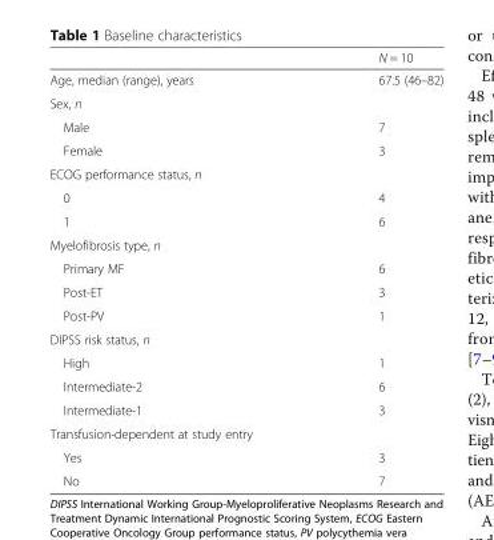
<table><thead><tr><td></td><td>N = 10</td></tr></thead><tbody><tr><td>Age, median (range), years</td><td>67.5 (46–82)</td></tr><tr><td colspan="2">Sex, n</td></tr><tr><td>Male</td><td>7</td></tr><tr><td>Female</td><td>3</td></tr><tr><td colspan="2">ECOG performance status, n</td></tr><tr><td>0</td><td>4</td></tr><tr><td>1</td><td>6</td></tr><tr><td colspan="2">Myelofibrosis type, n</td></tr><tr><td>Primary MF</td><td>6</td></tr><tr><td>Post-ET</td><td>3</td></tr><tr><td>Post-PV</td><td>1</td></tr><tr><td colspan="2">DIPSS risk status, n</td></tr><tr><td>High</td><td>1</td></tr><tr><td>Intermediate-2</td><td>6</td></tr><tr><td>Intermediate-1</td><td>3</td></tr><tr><td colspan="2">Transfusion-dependent at study entry</td></tr><tr><td>Yes</td><td>3</td></tr><tr><td>No</td><td>7</td></tr></tbody></table>